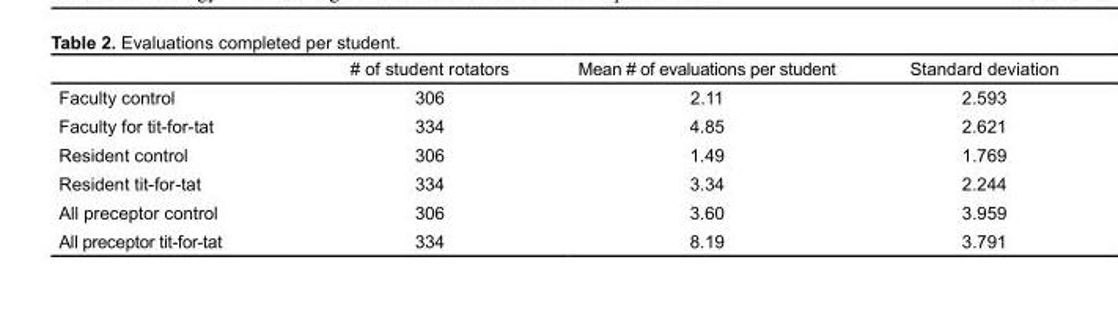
<table><thead><tr><td></td><td># of student rotators</td><td>Mean # of evaluations per student</td><td>Standard deviation</td></tr></thead><tbody><tr><td>Faculty control</td><td>306</td><td>2.11</td><td>2.593</td></tr><tr><td>Faculty for tit-for-tat</td><td>334</td><td>4.85</td><td>2.621</td></tr><tr><td>Resident control</td><td>306</td><td>1.49</td><td>1.769</td></tr><tr><td>Resident tit-for-tat</td><td>334</td><td>3.34</td><td>2.244</td></tr><tr><td>All preceptor control</td><td>306</td><td>3.60</td><td>3.959</td></tr><tr><td>All preceptor tit-for-tat</td><td>334</td><td>8.19</td><td>3.791</td></tr></tbody></table>